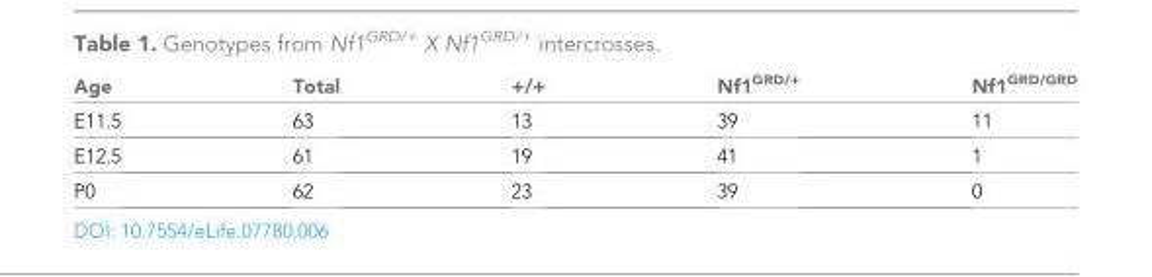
<table><thead><tr><td>Age</td><td>Total</td><td>+/+</td><td>Nf1<sup>GRD/+</sup></td><td>Nf1<sup>GRD/GRD</sup></td></tr></thead><tbody><tr><td>E11.5</td><td>63</td><td>13</td><td>39</td><td>11</td></tr><tr><td>E12.5</td><td>61</td><td>19</td><td>41</td><td>1</td></tr><tr><td>P0</td><td>62</td><td>23</td><td>39</td><td>0</td></tr></tbody></table>